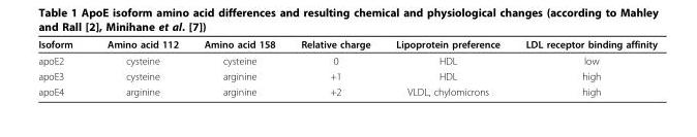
<table><thead><tr><td>Isoform</td><td>Amino acid 112</td><td>Amino acid 158</td><td>Relative charge</td><td>Lipoprotein preference</td><td>LDL receptor binding affinity</td></tr></thead><tbody><tr><td>apoE2</td><td>cysteine</td><td>cysteine</td><td>0</td><td>HDL</td><td>low</td></tr><tr><td>apoE3</td><td>cysteine</td><td>arginine</td><td>+1</td><td>HDL</td><td>high</td></tr><tr><td>apoE4</td><td>arginine</td><td>arginine</td><td>+2</td><td>VLDL, chylomicrons</td><td>high</td></tr></tbody></table>